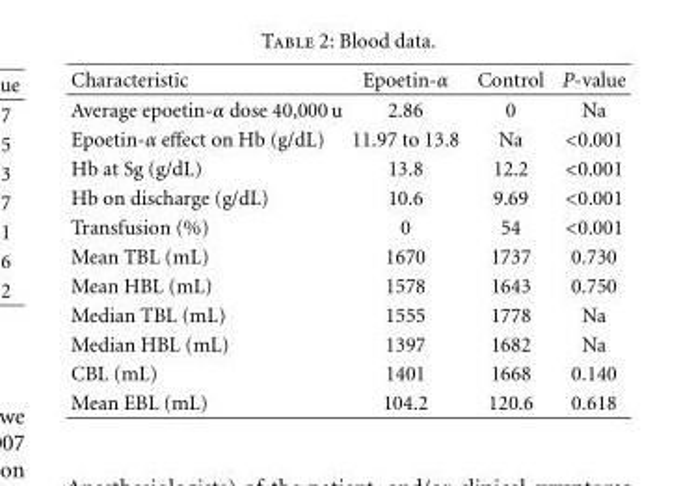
<table><thead><tr><td>Characteristic</td><td>Epoetin-α</td><td>Control</td><td>P-value</td></tr></thead><tbody><tr><td>Average epoetin-α dose 40,000 u</td><td>2.86</td><td>0</td><td>Na</td></tr><tr><td>Epoetin-α effect on Hb (g/dL)</td><td>11.97 to 13.8</td><td>Na</td><td>&lt;0.001</td></tr><tr><td>Hb at Sg (g/dL)</td><td>13.8</td><td>12.2</td><td>&lt;0.001</td></tr><tr><td>Hb on discharge (g/dL)</td><td>10.6</td><td>9.69</td><td>&lt;0.001</td></tr><tr><td>Transfusion (%)</td><td>0</td><td>54</td><td>&lt;0.001</td></tr><tr><td>Mean TBL (mL)</td><td>1670</td><td>1737</td><td>0.730</td></tr><tr><td>Mean HBL (mL)</td><td>1578</td><td>1643</td><td>0.750</td></tr><tr><td>Median TBL (mL)</td><td>1555</td><td>1778</td><td>Na</td></tr><tr><td>Median HBL (mL)</td><td>1397</td><td>1682</td><td>Na</td></tr><tr><td>CBL (mL)</td><td>1401</td><td>1668</td><td>0.140</td></tr><tr><td>Mean EBL (mL)</td><td>104.2</td><td>120.6</td><td>0.618</td></tr></tbody></table>